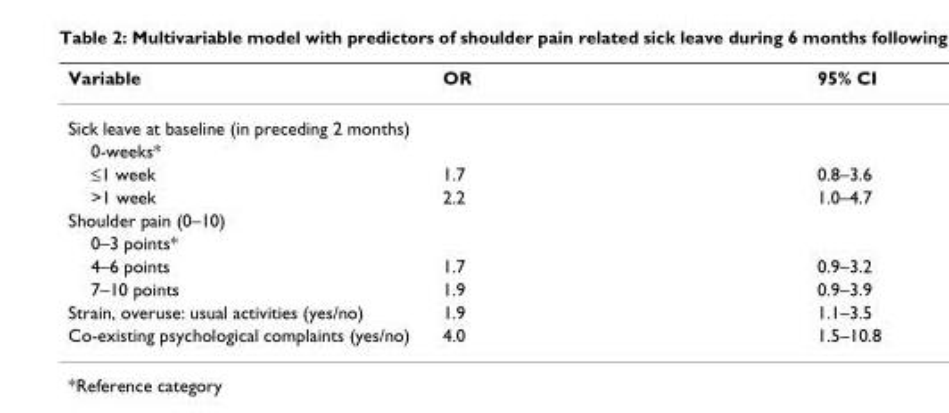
<table><thead><tr><td>Variable</td><td>OR</td><td>95% CI</td></tr></thead><tbody><tr><td colspan="3">Sick leave at baseline (in preceding 2 months)</td></tr><tr><td colspan="3">0-weeks*</td></tr><tr><td>≤1 week</td><td>1.7</td><td>0.8–3.6</td></tr><tr><td>&gt;1 week</td><td>2.2</td><td>1.0–4.7</td></tr><tr><td colspan="3">Shoulder pain (0–10)</td></tr><tr><td colspan="3">0–3 points*</td></tr><tr><td>4–6 points</td><td>1.7</td><td>0.9–3.2</td></tr><tr><td>7–10 points</td><td>1.9</td><td>0.9–3.9</td></tr><tr><td>Strain, overuse: usual activities (yes/no)</td><td>1.9</td><td>1.1–3.5</td></tr><tr><td>Co-existing psychological complaints (yes/no)</td><td>4.0</td><td>1.5–10.8</td></tr></tbody></table>